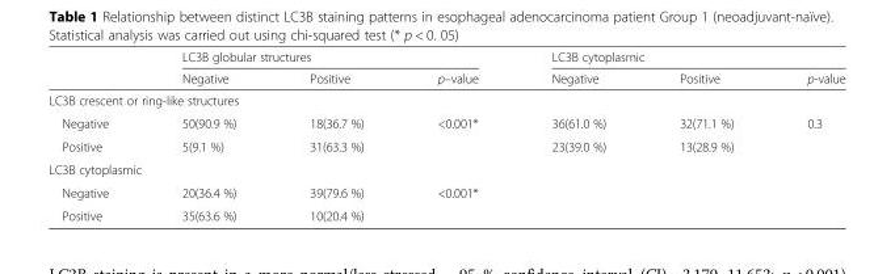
<table><thead><tr><td rowspan="2"></td><td colspan="3">LC3B globular structures</td><td colspan="3">LC3B cytoplasmic</td></tr><tr><td>Negative</td><td>Positive</td><td>p–value</td><td>Negative</td><td>Positive</td><td>p-value</td></tr></thead><tbody><tr><td colspan="7">LC3B crescent or ring-like structures</td></tr><tr><td>Negative</td><td>50(90.9 %)</td><td>18(36.7 %)</td><td rowspan="2">&lt;0.001*</td><td>36(61.0 %)</td><td>32(71.1 %)</td><td rowspan="2">0.3</td></tr><tr><td>Positive</td><td>5(9.1 %)</td><td>31(63.3 %)</td><td>23(39.0 %)</td><td>13(28.9 %)</td></tr><tr><td colspan="7">LC3B cytoplasmic</td></tr><tr><td>Negative</td><td>20(36.4 %)</td><td>39(79.6 %)</td><td rowspan="2">&lt;0.001*</td><td></td><td></td><td></td></tr><tr><td>Positive</td><td>35(63.6 %)</td><td>10(20.4 %)</td><td></td><td></td><td></td></tr></tbody></table>